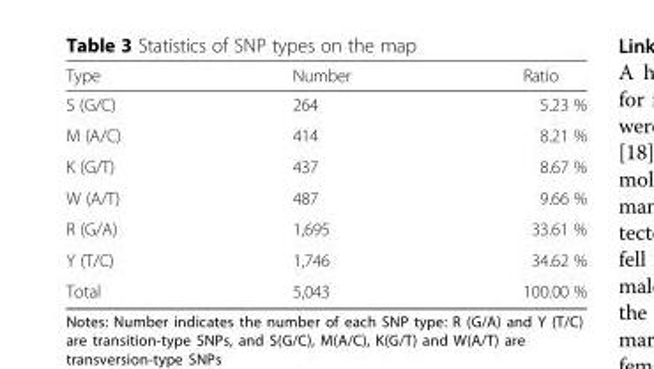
<table><thead><tr><td>Type</td><td>Number</td><td>Ratio</td></tr></thead><tbody><tr><td>S (G/C)</td><td>264</td><td>5.23 %</td></tr><tr><td>M (A/C)</td><td>414</td><td>8.21 %</td></tr><tr><td>K (G/T)</td><td>437</td><td>8.67 %</td></tr><tr><td>W (A/T)</td><td>487</td><td>9.66 %</td></tr><tr><td>R (G/A)</td><td>1,695</td><td>33.61 %</td></tr><tr><td>Y (T/C)</td><td>1,746</td><td>34.62 %</td></tr><tr><td>Total</td><td>5,043</td><td>100.00 %</td></tr></tbody></table>